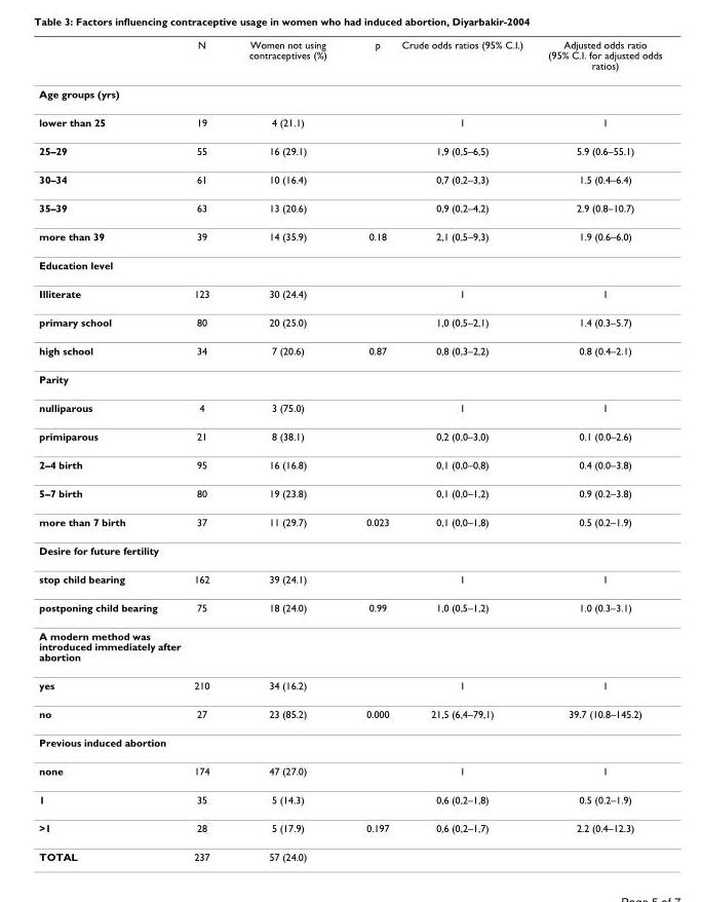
<table><thead><tr><td></td><td>N</td><td>Women not using contraceptives (%)</td><td>p</td><td>Crude odds ratios (95% C.I.)</td><td>Adjusted odds ratio (95% C.I. for adjusted odds ratios)</td></tr></thead><tbody><tr><td colspan="6">Age groups (yrs)</td></tr><tr><td>lower than 25</td><td>19</td><td>4 (21.1)</td><td></td><td>1</td><td>1</td></tr><tr><td>25–29</td><td>55</td><td>16 (29.1)</td><td></td><td>1,9 (0,5–6,5)</td><td>5.9 (0.6–55.1)</td></tr><tr><td>30–34</td><td>61</td><td>10 (16.4)</td><td></td><td>0,7 (0,2–3,3)</td><td>1.5 (0.4–6.4)</td></tr><tr><td>35–39</td><td>63</td><td>13 (20.6)</td><td></td><td>0,9 (0,2–4,2)</td><td>2.9 (0.8–10.7)</td></tr><tr><td>more than 39</td><td>39</td><td>14 (35.9)</td><td>0.18</td><td>2,1 (0,5–9,3)</td><td>1.9 (0.6–6.0)</td></tr><tr><td colspan="6">Education level</td></tr><tr><td>Illiterate</td><td>123</td><td>30 (24.4)</td><td></td><td>1</td><td>1</td></tr><tr><td>primary school</td><td>80</td><td>20 (25.0)</td><td></td><td>1,0 (0,5–2,1)</td><td>1.4 (0.3–5.7)</td></tr><tr><td>high school</td><td>34</td><td>7 (20.6)</td><td>0.87</td><td>0,8 (0,3–2,2)</td><td>0.8 (0.4–2.1)</td></tr><tr><td colspan="6">Parity</td></tr><tr><td>nulliparous</td><td>4</td><td>3 (75.0)</td><td></td><td>1</td><td>1</td></tr><tr><td>primiparous</td><td>21</td><td>8 (38.1)</td><td></td><td>0,2 (0,0–3,0)</td><td>0.1 (0.0–2.6)</td></tr><tr><td>2–4 birth</td><td>95</td><td>16 (16.8)</td><td></td><td>0,1 (0,0–0,8)</td><td>0.4 (0.0–3.8)</td></tr><tr><td>5–7 birth</td><td>80</td><td>19 (23.8)</td><td></td><td>0,1 (0,0–1,2)</td><td>0.9 (0.2–3.8)</td></tr><tr><td>more than 7 birth</td><td>37</td><td>11 (29.7)</td><td>0.023</td><td>0,1 (0,0–1,8)</td><td>0.5 (0.2–1.9)</td></tr><tr><td colspan="6">Desire for future fertility</td></tr><tr><td>stop child bearing</td><td>162</td><td>39 (24.1)</td><td></td><td>1</td><td>1</td></tr><tr><td>postponing child bearing</td><td>75</td><td>18 (24.0)</td><td>0.99</td><td>1,0 (0,5–1,2)</td><td>1.0 (0.3–3.1)</td></tr><tr><td colspan="6">A modern method was introduced immediately after abortion</td></tr><tr><td>yes</td><td>210</td><td>34 (16.2)</td><td></td><td>1</td><td>1</td></tr><tr><td>no</td><td>27</td><td>23 (85.2)</td><td>0.000</td><td>21,5 (6,4–79,1)</td><td>39.7 (10.8–145.2)</td></tr><tr><td colspan="6">Previous induced abortion</td></tr><tr><td>none</td><td>174</td><td>47 (27.0)</td><td></td><td>1</td><td>1</td></tr><tr><td>1</td><td>35</td><td>5 (14.3)</td><td></td><td>0,6 (0,2–1,8)</td><td>0.5 (0.2–1.9)</td></tr><tr><td>&gt;1</td><td>28</td><td>5 (17.9)</td><td>0.197</td><td>0,6 (0,2–1,7)</td><td>2.2 (0.4–12.3)</td></tr><tr><td>TOTAL</td><td>237</td><td>57 (24.0)</td><td></td><td></td><td></td></tr></tbody></table>